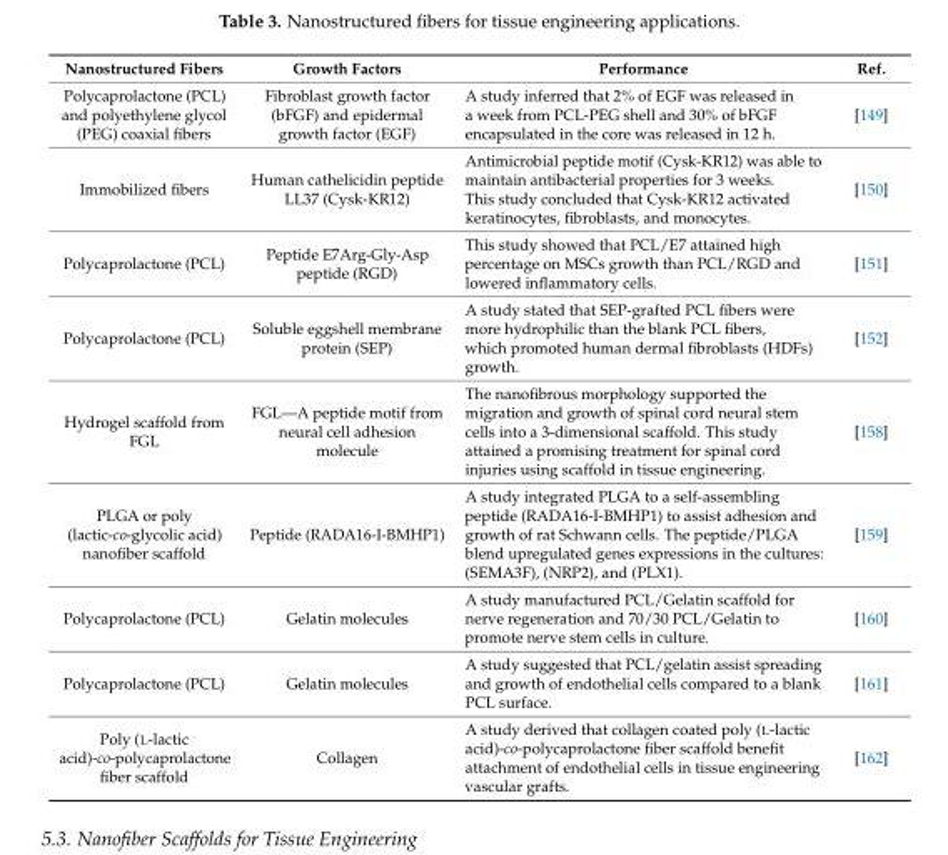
<table><thead><tr><td>Nanostructured Fibers</td><td>Growth Factors</td><td>Performance</td><td>Ref.</td></tr></thead><tbody><tr><td>Polycaprolactone (PCL) and polyethylene glycol (PEG) coaxial fibers</td><td>Fibroblast growth factor (bFGF) and epidermal growth factor (EGF)</td><td>A study inferred that 2% of EGF was released in a week from PCL-PEG shell and 30% of bFGF encapsulated in the core was released in 12 h.</td><td>[149]</td></tr><tr><td>Immobilized fibers</td><td>Human cathelicidin peptide LL37 (Cysk-KR12)</td><td>Antimicrobial peptide motif (Cysk-KR12) was able to maintain antibacterial properties for 3 weeks. This study concluded that Cysk-KR12 activated keratinocytes, fibroblasts, and monocytes.</td><td>[150]</td></tr><tr><td>Polycaprolactone (PCL)</td><td>Peptide E7Arg-Gly-Asp peptide (RGD)</td><td>This study showed that PCL/E7 attained high percentage on MSCs growth than PCL/RGD and lowered inflammatory cells.</td><td>[151]</td></tr><tr><td>Polycaprolactone (PCL)</td><td>Soluble eggshell membrane protein (SEP)</td><td>A study stated that SEP-grafted PCL fibers were more hydrophilic than the blank PCL fibers, which promoted human dermal fibroblasts (HDFs) growth.</td><td>[152]</td></tr><tr><td>Hydrogel scaffold from FGL</td><td>FGL—A peptide motif from neural cell adhesion molecule</td><td>The nanofibrous morphology supported the migration and growth of spinal cord neural stem cells into a 3-dimensional scaffold. This study attained a promising treatment for spinal cord injuries using scaffold in tissue engineering.</td><td>[158]</td></tr><tr><td>PLGA or poly (lactic-co-glycolic acid) nanofiber scaffold</td><td>Peptide (RADA16-I-BMHP1)</td><td>A study integrated PLGA to a self-assembling peptide (RADA16-I-BMHP1) to assist adhesion and growth of rat Schwann cells. The peptide/PLGA blend upregulated genes expressions in the cultures: (SEMA3F), (NRP2), and (PLX1).</td><td>[159]</td></tr><tr><td>Polycaprolactone (PCL)</td><td>Gelatin molecules</td><td>A study manufactured PCL/Gelatin scaffold for nerve regeneration and 70/30 PCL/Gelatin to promote nerve stem cells in culture.</td><td>[160]</td></tr><tr><td>Polycaprolactone (PCL)</td><td>Gelatin molecules</td><td>A study suggested that PCL/gelatin assist spreading and growth of endothelial cells compared to a blank PCL surface.</td><td>[161]</td></tr><tr><td>Poly (L-lactic acid)-co-polycaprolactone fiber scaffold</td><td>Collagen</td><td>A study derived that collagen coated poly (L-lactic acid)-co-polycaprolactone fiber scaffold benefit attachment of endothelial cells in tissue engineering vascular grafts.</td><td>[162]</td></tr></tbody></table>